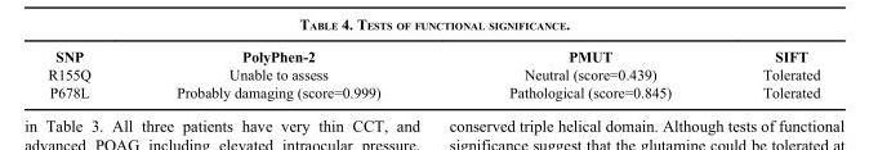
<table><thead><tr><td>SNP</td><td>PolyPhen-2</td><td>PMUT</td><td>SIFT</td></tr></thead><tbody><tr><td>R155Q</td><td>Unable to assess</td><td>Neutral (score=0.439)</td><td>Tolerated</td></tr><tr><td>P678L</td><td>Probably damaging (score=0.999)</td><td>Pathological (score=0.845)</td><td>Tolerated</td></tr></tbody></table>